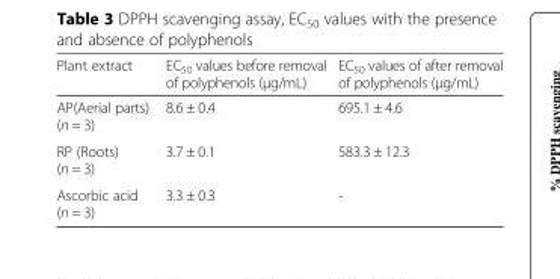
<table><thead><tr><td>Plant extract</td><td>EC<sub>50</sub> values before removal of polyphenols (μg/mL)</td><td>EC<sub>50</sub> values of after removal of polyphenols (μg/mL)</td></tr></thead><tbody><tr><td>AP(Aerial parts) (n = 3)</td><td>8.6 ± 0.4</td><td>695.1 ± 4.6</td></tr><tr><td>RP (Roots) (n = 3)</td><td>3.7 ± 0.1</td><td>583.3 ± 12.3</td></tr><tr><td>Ascorbic acid (n = 3)</td><td>3.3 ± 0.3</td><td>-</td></tr></tbody></table>